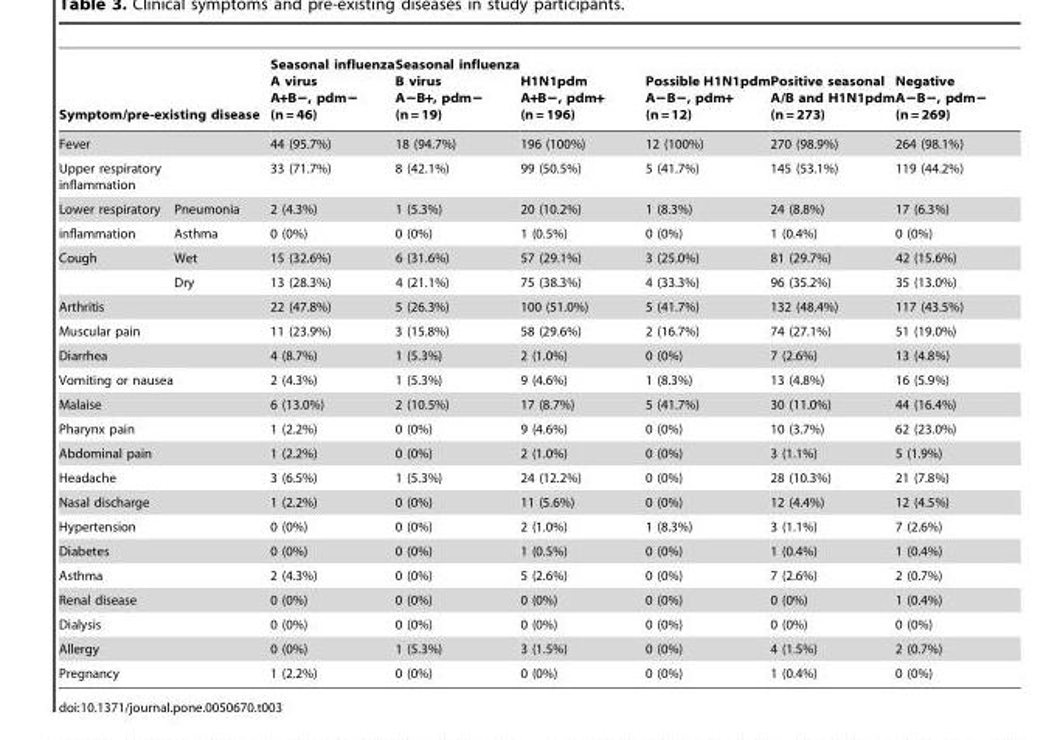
<table><thead><tr><td rowspan="3" colspan="2">Symptom/pre-existing disease Fever Upper respiratory inflammation</td><td rowspan="4">Seasonal influenza A virus A+B−, pdm− (n = 46) 44 (95.7%) 33 (71.7%) 2 (4.3%)</td><td rowspan="4">Seasonal influenza B virus A−B+, pdm− (n = 19) 18 (94.7%) 8 (42.1%) 1 (5.3%)</td><td rowspan="4">H1N1pdm A+B−, pdm+ (n = 196) 196 (100%) 99 (50.5%) 20 (10.2%)</td><td rowspan="4">Possible H1N1pdm A−B−, pdm+ (n = 12) 12 (100%) 5 (41.7%) 1 (8.3%)</td><td rowspan="4">Positive seasonal A/B and H1N1pdm (n = 273) 270 (98.9%) 145 (53.1%) 24 (8.8%)</td><td rowspan="4">Negative A−B−, pdm− (n = 269) 264 (98.1%) 119 (44.2%) 17 (6.3%)</td></tr><tr></tr><tr></tr><tr><td>Lower respiratory</td><td>Pneumonia</td></tr></thead><tbody><tr><td>inflammation</td><td>Asthma</td><td>0 (0%)</td><td>0 (0%)</td><td>1 (0.5%)</td><td>0 (0%)</td><td>1 (0.4%)</td><td>0 (0%)</td></tr><tr><td rowspan="2">Cough</td><td>Wet</td><td>15 (32.6%)</td><td>6 (31.6%)</td><td>57 (29.1%)</td><td>3 (25.0%)</td><td>81 (29.7%)</td><td>42 (15.6%)</td></tr><tr><td>Dry</td><td>13 (28.3%)</td><td>4 (21.1%)</td><td>75 (38.3%)</td><td>4 (33.3%)</td><td>96 (35.2%)</td><td>35 (13.0%)</td></tr><tr><td colspan="2">Arthritis</td><td>22 (47.8%)</td><td>5 (26.3%)</td><td>100 (51.0%)</td><td>5 (41.7%)</td><td>132 (48.4%)</td><td>117 (43.5%)</td></tr><tr><td colspan="2">Muscular pain</td><td>11 (23.9%)</td><td>3 (15.8%)</td><td>58 (29.6%)</td><td>2 (16.7%)</td><td>74 (27.1%)</td><td>51 (19.0%)</td></tr><tr><td colspan="2">Diarrhea</td><td>4 (8.7%)</td><td>1 (5.3%)</td><td>2 (1.0%)</td><td>0 (0%)</td><td>7 (2.6%)</td><td>13 (4.8%)</td></tr><tr><td colspan="2">Vomiting or nausea</td><td>2 (4.3%)</td><td>1 (5.3%)</td><td>9 (4.6%)</td><td>1 (8.3%)</td><td>13 (4.8%)</td><td>16 (5.9%)</td></tr><tr><td colspan="2">Malaise</td><td>6 (13.0%)</td><td>2 (10.5%)</td><td>17 (8.7%)</td><td>5 (41.7%)</td><td>30 (11.0%)</td><td>44 (16.4%)</td></tr><tr><td colspan="2">Pharynx pain</td><td>1 (2.2%)</td><td>0 (0%)</td><td>9 (4.6%)</td><td>0 (0%)</td><td>10 (3.7%)</td><td>62 (23.0%)</td></tr><tr><td colspan="2">Abdominal pain</td><td>1 (2.2%)</td><td>0 (0%)</td><td>2 (1.0%)</td><td>0 (0%)</td><td>3 (1.1%)</td><td>5 (1.9%)</td></tr><tr><td colspan="2">Headache</td><td>3 (6.5%)</td><td>1 (5.3%)</td><td>24 (12.2%)</td><td>0 (0%)</td><td>28 (10.3%)</td><td>21 (7.8%)</td></tr><tr><td colspan="2">Nasal discharge</td><td>1 (2.2%)</td><td>0 (0%)</td><td>11 (5.6%)</td><td>0 (0%)</td><td>12 (4.4%)</td><td>12 (4.5%)</td></tr><tr><td colspan="2">Hypertension</td><td>0 (0%)</td><td>0 (0%)</td><td>2 (1.0%)</td><td>1 (8.3%)</td><td>3 (1.1%)</td><td>7 (2.6%)</td></tr><tr><td colspan="2">Diabetes</td><td>0 (0%)</td><td>0 (0%)</td><td>1 (0.5%)</td><td>0 (0%)</td><td>1 (0.4%)</td><td>1 (0.4%)</td></tr><tr><td colspan="2">Asthma</td><td>2 (4.3%)</td><td>0 (0%)</td><td>5 (2.6%)</td><td>0 (0%)</td><td>7 (2.6%)</td><td>2 (0.7%)</td></tr><tr><td colspan="2">Renal disease</td><td>0 (0%)</td><td>0 (0%)</td><td>0 (0%)</td><td>0 (0%)</td><td>0 (0%)</td><td>1 (0.4%)</td></tr><tr><td colspan="2">Dialysis</td><td>0 (0%)</td><td>0 (0%)</td><td>0 (0%)</td><td>0 (0%)</td><td>0 (0%)</td><td>0 (0%)</td></tr><tr><td colspan="2">Allergy</td><td>0 (0%)</td><td>1 (5.3%)</td><td>3 (1.5%)</td><td>0 (0%)</td><td>4 (1.5%)</td><td>2 (0.7%)</td></tr><tr><td colspan="2">Pregnancy</td><td>1 (2.2%)</td><td>0 (0%)</td><td>0 (0%)</td><td>0 (0%)</td><td>1 (0.4%)</td><td>0 (0%)</td></tr></tbody></table>